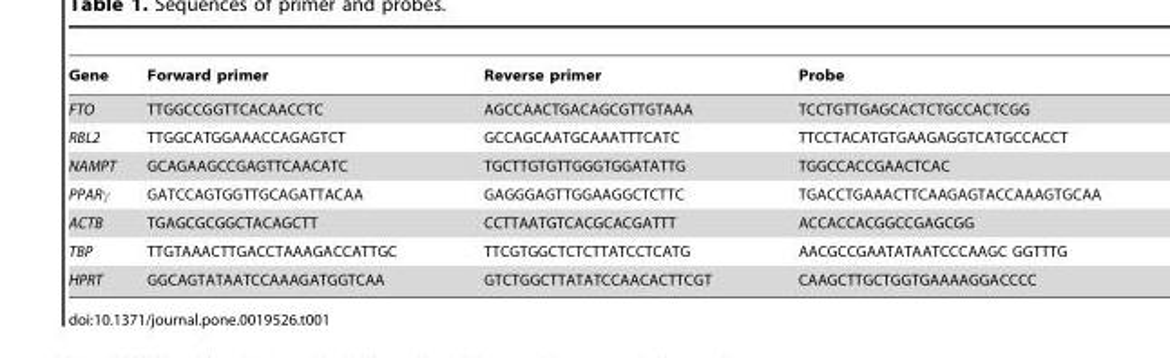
<table><thead><tr><td>Gene</td><td>Forward primer</td><td>Reverse primer</td><td>Probe</td></tr></thead><tbody><tr><td>FTO</td><td>TTGGCCGGTTCACAACCTC</td><td>AGCCAACTGACAGCGTTGTAAA</td><td>TCCTGTTGAGCACTCTGCCACTCGG</td></tr><tr><td>RBL2</td><td>TTGGCATGGAAACCAGAGTCT</td><td>GCCAGCAATGCAAATTTCATC</td><td>TTCCTACATGTGAAGAGGTCATGCCACCT</td></tr><tr><td>NAMPT</td><td>GCAGAAGCCGAGTTCAACATC</td><td>TGCTTGTGTTGGGTGGATATTG</td><td>TGGCCACCGAACTCAC</td></tr><tr><td>PPARγ</td><td>GATCCAGTGGTTGCAGATTACAA</td><td>GAGGGAGTTGGAAGGCTCTTC</td><td>TGACCTGAAACTTCAAGAGTACCAAAGTGCAA</td></tr><tr><td>ACTB</td><td>TGAGCGCGGCTACAGCTT</td><td>CCTTAATGTCACGCACGATTT</td><td>ACCACCACGGCCGAGCGG</td></tr><tr><td>TBP</td><td>TTGTAAACTTGACCTAAAGACCATTGC</td><td>TTCGTGGCTCTCTTATCCTCATG</td><td>AACGCCGAATATAATCCCAAGC GGTTTG</td></tr><tr><td>HPRT</td><td>GGCAGTATAATCCAAAGATGGTCAA</td><td>GTCTGGCTTATATCCAACACTTCGT</td><td>CAAGCTTGCTGGTGAAAAGGACCCC</td></tr></tbody></table>